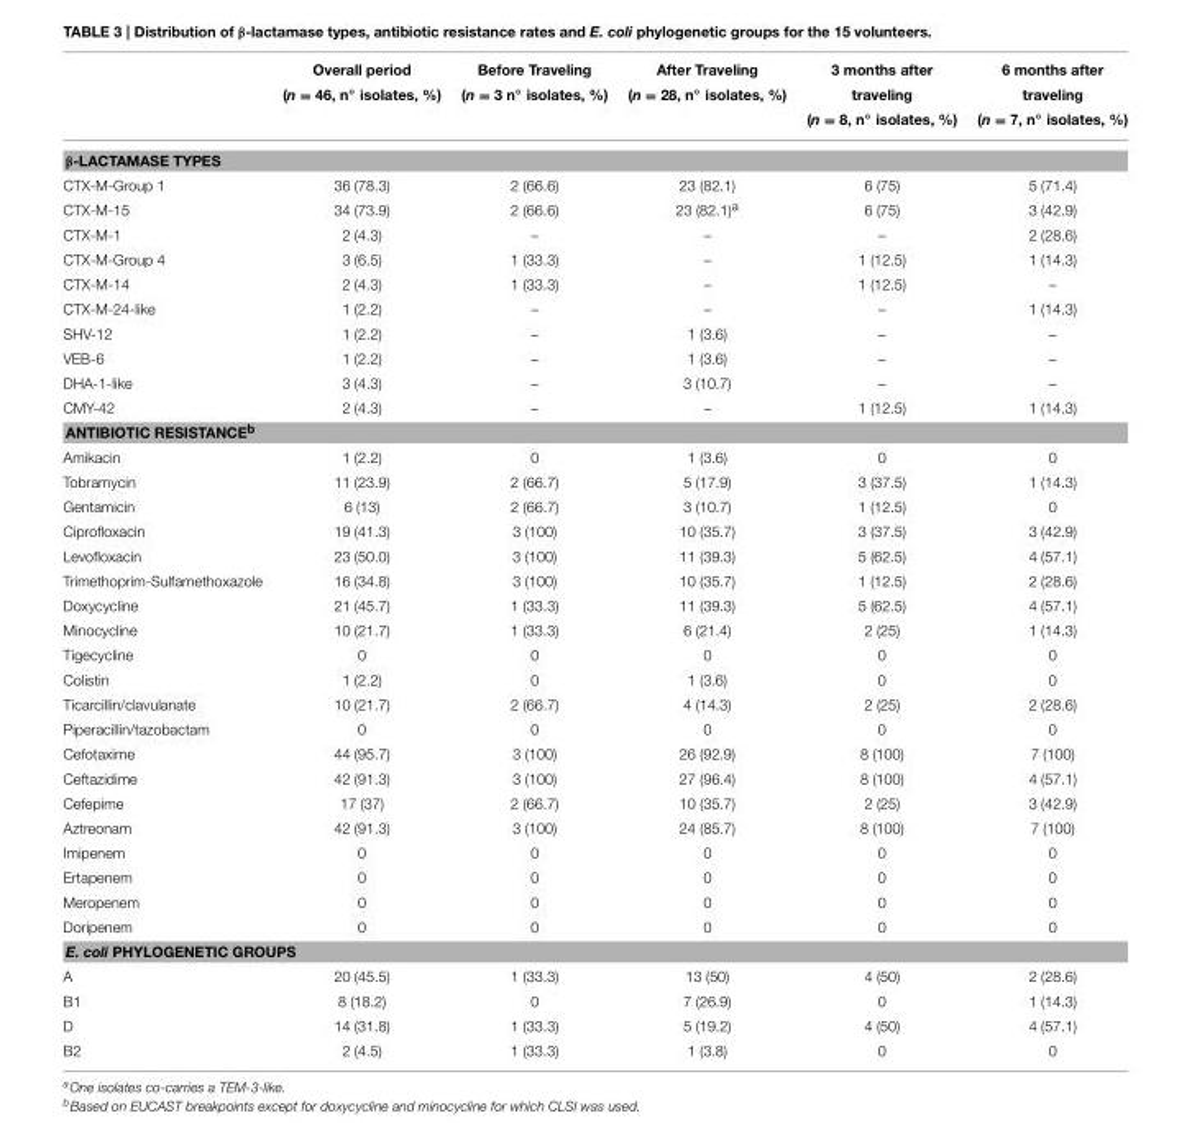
<table><thead><tr><td></td><td>Overall period (n = 46, n◦ isolates, %)</td><td>Before Traveling (n = 3 n◦ isolates, %)</td><td>After Traveling (n = 28, n◦ isolates, %)</td><td>3 months after traveling (n = 8, n◦ isolates, %)</td><td>6 months after traveling (n = 7, n◦ isolates, %)</td></tr></thead><tbody><tr><td colspan="6">β-LACTAMASE TYPES</td></tr><tr><td>CTX-M-Group 1</td><td>36 (78.3)</td><td>2 (66.6)</td><td>23 (82.1)</td><td>6 (75)</td><td>5 (71.4)</td></tr><tr><td>CTX-M-15</td><td>34 (73.9)</td><td>2 (66.6)</td><td>23 (82.1)<sup>a</sup></td><td>6 (75)</td><td>3 (42.9)</td></tr><tr><td>CTX-M-1</td><td>2 (4.3)</td><td>–</td><td>–</td><td>–</td><td>2 (28.6)</td></tr><tr><td>CTX-M-Group 4</td><td>3 (6.5)</td><td>1 (33.3)</td><td>–</td><td>1 (12.5)</td><td>1 (14.3)</td></tr><tr><td>CTX-M-14</td><td>2 (4.3)</td><td>1 (33.3)</td><td>–</td><td>1 (12.5)</td><td>–</td></tr><tr><td>CTX-M-24-like</td><td>1 (2.2)</td><td>–</td><td>–</td><td>–</td><td>1 (14.3)</td></tr><tr><td>SHV-12</td><td>1 (2.2)</td><td>–</td><td>1 (3.6)</td><td>–</td><td>–</td></tr><tr><td>VEB-6</td><td>1 (2.2)</td><td>–</td><td>1 (3.6)</td><td>–</td><td>–</td></tr><tr><td>DHA-1-like</td><td>3 (4.3)</td><td>–</td><td>3 (10.7)</td><td>–</td><td>–</td></tr><tr><td>CMY-42</td><td>2 (4.3)</td><td>–</td><td>–</td><td>1 (12.5)</td><td>1 (14.3)</td></tr><tr><td colspan="6">ANTIBIOTIC RESISTANCE<sup>b</sup></td></tr><tr><td>Amikacin</td><td>1 (2.2)</td><td>0</td><td>1 (3.6)</td><td>0</td><td>0</td></tr><tr><td>Tobramycin</td><td>11 (23.9)</td><td>2 (66.7)</td><td>5 (17.9)</td><td>3 (37.5)</td><td>1 (14.3)</td></tr><tr><td>Gentamicin</td><td>6 (13)</td><td>2 (66.7)</td><td>3 (10.7)</td><td>1 (12.5)</td><td>0</td></tr><tr><td>Ciprofloxacin</td><td>19 (41.3)</td><td>3 (100)</td><td>10 (35.7)</td><td>3 (37.5)</td><td>3 (42.9)</td></tr><tr><td>Levofloxacin</td><td>23 (50.0)</td><td>3 (100)</td><td>11 (39.3)</td><td>5 (62.5)</td><td>4 (57.1)</td></tr><tr><td>Trimethoprim-Sulfamethoxazole</td><td>16 (34.8)</td><td>3 (100)</td><td>10 (35.7)</td><td>1 (12.5)</td><td>2 (28.6)</td></tr><tr><td>Doxycycline</td><td>21 (45.7)</td><td>1 (33.3)</td><td>11 (39.3)</td><td>5 (62.5)</td><td>4 (57.1)</td></tr><tr><td>Minocycline</td><td>10 (21.7)</td><td>1 (33.3)</td><td>6 (21.4)</td><td>2 (25)</td><td>1 (14.3)</td></tr><tr><td>Tigecycline</td><td>0</td><td>0</td><td>0</td><td>0</td><td>0</td></tr><tr><td>Colistin</td><td>1 (2.2)</td><td>0</td><td>1 (3.6)</td><td>0</td><td>0</td></tr><tr><td>Ticarcillin/clavulanate</td><td>10 (21.7)</td><td>2 (66.7)</td><td>4 (14.3)</td><td>2 (25)</td><td>2 (28.6)</td></tr><tr><td>Piperacillin/tazobactam</td><td>0</td><td>0</td><td>0</td><td>0</td><td>0</td></tr><tr><td>Cefotaxime</td><td>44 (95.7)</td><td>3 (100)</td><td>26 (92.9)</td><td>8 (100)</td><td>7 (100)</td></tr><tr><td>Ceftazidime</td><td>42 (91.3)</td><td>3 (100)</td><td>27 (96.4)</td><td>8 (100)</td><td>4 (57.1)</td></tr><tr><td>Cefepime</td><td>17 (37)</td><td>2 (66.7)</td><td>10 (35.7)</td><td>2 (25)</td><td>3 (42.9)</td></tr><tr><td>Aztreonam</td><td>42 (91.3)</td><td>3 (100)</td><td>24 (85.7)</td><td>8 (100)</td><td>7 (100)</td></tr><tr><td>Imipenem</td><td>0</td><td>0</td><td>0</td><td>0</td><td>0</td></tr><tr><td>Ertapenem</td><td>0</td><td>0</td><td>0</td><td>0</td><td>0</td></tr><tr><td>Meropenem</td><td>0</td><td>0</td><td>0</td><td>0</td><td>0</td></tr><tr><td>Doripenem</td><td>0</td><td>0</td><td>0</td><td>0</td><td>0</td></tr><tr><td colspan="6">E. coli PHYLOGENETIC GROUPS</td></tr><tr><td>A</td><td>20 (45.5)</td><td>1 (33.3)</td><td>13 (50)</td><td>4 (50)</td><td>2 (28.6)</td></tr><tr><td>B1</td><td>8 (18.2)</td><td>0</td><td>7 (26.9)</td><td>0</td><td>1 (14.3)</td></tr><tr><td>D</td><td>14 (31.8)</td><td>1 (33.3)</td><td>5 (19.2)</td><td>4 (50)</td><td>4 (57.1)</td></tr><tr><td>B2</td><td>2 (4.5)</td><td>1 (33.3)</td><td>1 (3.8)</td><td>0</td><td>0</td></tr></tbody></table>